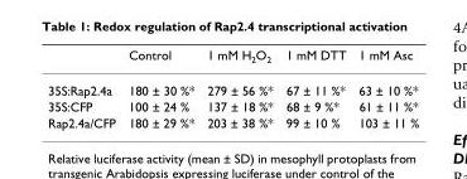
<table><thead><tr><td></td><td>Control</td><td>1 mM H<sub>2</sub>O<sub>2</sub></td><td>1 mM DTT</td><td>1 mM Asc</td></tr></thead><tbody><tr><td>35S:Rap2.4a</td><td>180 ± 30 %*</td><td>279 ± 56 %*</td><td>67 ± 11 %*</td><td>63 ± 10 %*</td></tr><tr><td>35S:CFP</td><td>100 ± 24 %</td><td>137 ± 18 %*</td><td>68 ± 9 %*</td><td>61 ± 11 %*</td></tr><tr><td>Rap2.4a/CFP</td><td>180 ± 29 %*</td><td>203 ± 38 %*</td><td>99 ± 10 %</td><td>103 ± 11 %</td></tr></tbody></table>